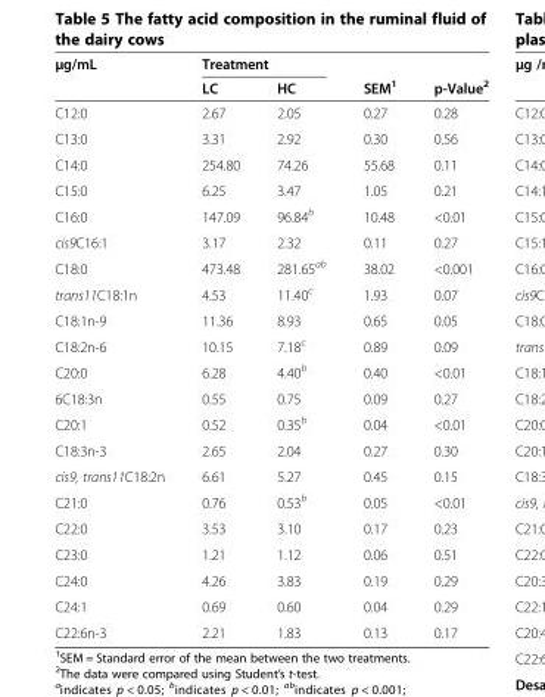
<table><thead><tr><td rowspan="2">μg/mL</td><td colspan="2">Treatment</td><td rowspan="2">SEM<sup>1</sup></td><td rowspan="2">p-Value<sup>2</sup></td></tr><tr><td>LC</td><td>HC</td></tr></thead><tbody><tr><td>C12:0</td><td>2.67</td><td>2.05</td><td>0.27</td><td>0.28</td></tr><tr><td>C13:0</td><td>3.31</td><td>2.92</td><td>0.30</td><td>0.56</td></tr><tr><td>C14:0</td><td>254.80</td><td>74.26</td><td>55.68</td><td>0.11</td></tr><tr><td>C15:0</td><td>6.25</td><td>3.47</td><td>1.05</td><td>0.21</td></tr><tr><td>C16:0</td><td>147.09</td><td>96.84<sup>b</sup></td><td>10.48</td><td>&lt;0.01</td></tr><tr><td>cis9C16:1</td><td>3.17</td><td>2.32</td><td>0.11</td><td>0.27</td></tr><tr><td>C18:0</td><td>473.48</td><td>281.65<sup>ab</sup></td><td>38.02</td><td>&lt;0.001</td></tr><tr><td>trans11C18:1n</td><td>4.53</td><td>11.40<sup>c</sup></td><td>1.93</td><td>0.07</td></tr><tr><td>C18:1n-9</td><td>11.36</td><td>8.93</td><td>0.65</td><td>0.05</td></tr><tr><td>C18:2n-6</td><td>10.15</td><td>7.18<sup>c</sup></td><td>0.89</td><td>0.09</td></tr><tr><td>C20:0</td><td>6.28</td><td>4.40<sup>b</sup></td><td>0.40</td><td>&lt;0.01</td></tr><tr><td>6C18:3n</td><td>0.55</td><td>0.75</td><td>0.09</td><td>0.27</td></tr><tr><td>C20:1</td><td>0.52</td><td>0.35<sup>b</sup></td><td>0.04</td><td>&lt;0.01</td></tr><tr><td>C18:3n-3</td><td>2.65</td><td>2.04</td><td>0.27</td><td>0.30</td></tr><tr><td>cis9, trans11C18:2n</td><td>6.61</td><td>5.27</td><td>0.45</td><td>0.15</td></tr><tr><td>C21:0</td><td>0.76</td><td>0.53<sup>b</sup></td><td>0.05</td><td>&lt;0.01</td></tr><tr><td>C22:0</td><td>3.53</td><td>3.10</td><td>0.17</td><td>0.23</td></tr><tr><td>C23:0</td><td>1.21</td><td>1.12</td><td>0.06</td><td>0.51</td></tr><tr><td>C24:0</td><td>4.26</td><td>3.83</td><td>0.19</td><td>0.29</td></tr><tr><td>C24:1</td><td>0.69</td><td>0.60</td><td>0.04</td><td>0.29</td></tr><tr><td>C22:6n-3</td><td>2.21</td><td>1.83</td><td>0.13</td><td>0.17</td></tr></tbody></table>